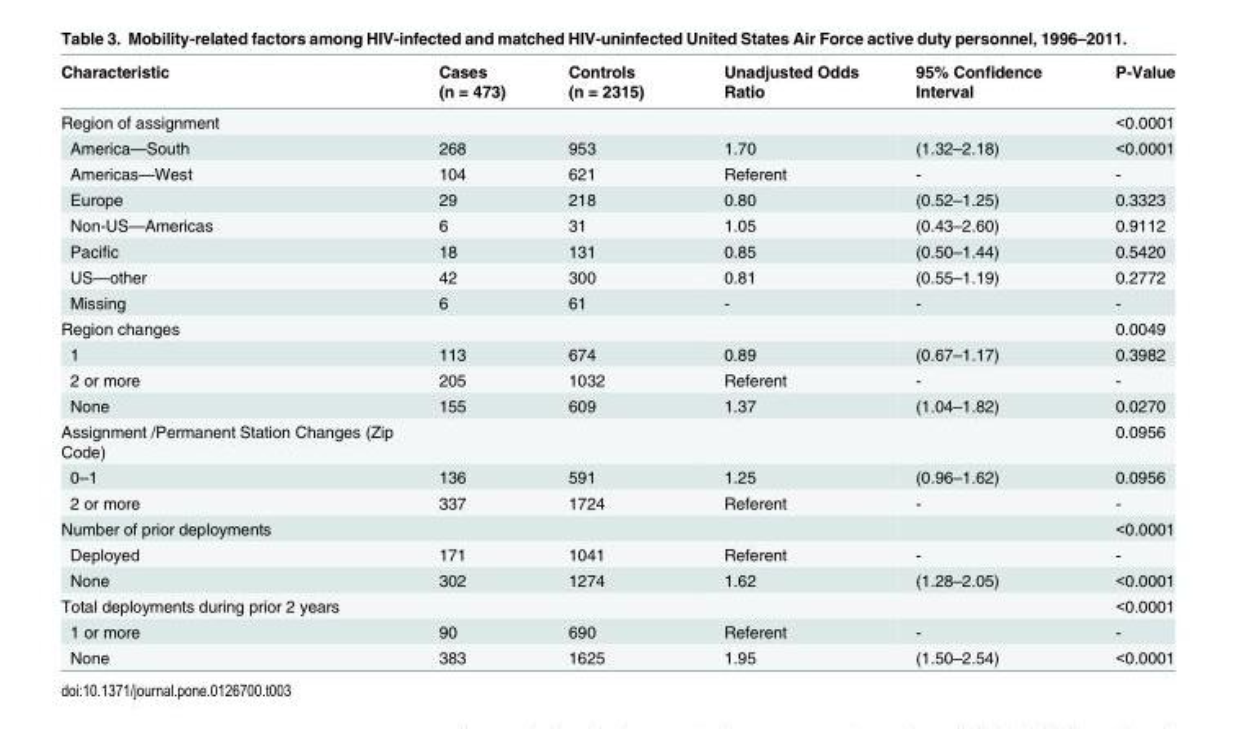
<table><thead><tr><td>Characteristic</td><td>Cases (n = 473)</td><td>Controls (n = 2315)</td><td>Unadjusted Odds Ratio</td><td>95% Confidence Interval</td><td>P-Value</td></tr></thead><tbody><tr><td>Region of assignment</td><td></td><td></td><td></td><td></td><td>&lt;0.0001</td></tr><tr><td>America—South</td><td>268</td><td>953</td><td>1.70</td><td>(1.32–2.18)</td><td>&lt;0.0001</td></tr><tr><td>Americas—West</td><td>104</td><td>621</td><td>Referent</td><td>-</td><td>-</td></tr><tr><td>Europe</td><td>29</td><td>218</td><td>0.80</td><td>(0.52–1.25)</td><td>0.3323</td></tr><tr><td>Non-US—Americas</td><td>6</td><td>31</td><td>1.05</td><td>(0.43–2.60)</td><td>0.9112</td></tr><tr><td>Pacific</td><td>18</td><td>131</td><td>0.85</td><td>(0.50–1.44)</td><td>0.5420</td></tr><tr><td>US—other</td><td>42</td><td>300</td><td>0.81</td><td>(0.55–1.19)</td><td>0.2772</td></tr><tr><td>Missing</td><td>6</td><td>61</td><td>-</td><td>-</td><td>-</td></tr><tr><td>Region changes</td><td></td><td></td><td></td><td></td><td>0.0049</td></tr><tr><td>1</td><td>113</td><td>674</td><td>0.89</td><td>(0.67–1.17)</td><td>0.3982</td></tr><tr><td>2 or more</td><td>205</td><td>1032</td><td>Referent</td><td>-</td><td>-</td></tr><tr><td>None</td><td>155</td><td>609</td><td>1.37</td><td>(1.04–1.82)</td><td>0.0270</td></tr><tr><td>Assignment /Permanent Station Changes (Zip Code)</td><td></td><td></td><td></td><td></td><td>0.0956</td></tr><tr><td>0–1</td><td>136</td><td>591</td><td>1.25</td><td>(0.96–1.62)</td><td>0.0956</td></tr><tr><td>2 or more</td><td>337</td><td>1724</td><td>Referent</td><td>-</td><td>-</td></tr><tr><td>Number of prior deployments</td><td></td><td></td><td></td><td></td><td>&lt;0.0001</td></tr><tr><td>Deployed</td><td>171</td><td>1041</td><td>Referent</td><td>-</td><td>-</td></tr><tr><td>None</td><td>302</td><td>1274</td><td>1.62</td><td>(1.28–2.05)</td><td>&lt;0.0001</td></tr><tr><td>Total deployments during prior 2 years</td><td></td><td></td><td></td><td></td><td>&lt;0.0001</td></tr><tr><td>1 or more</td><td>90</td><td>690</td><td>Referent</td><td>-</td><td>-</td></tr><tr><td>None</td><td>383</td><td>1625</td><td>1.95</td><td>(1.50–2.54)</td><td>&lt;0.0001</td></tr></tbody></table>